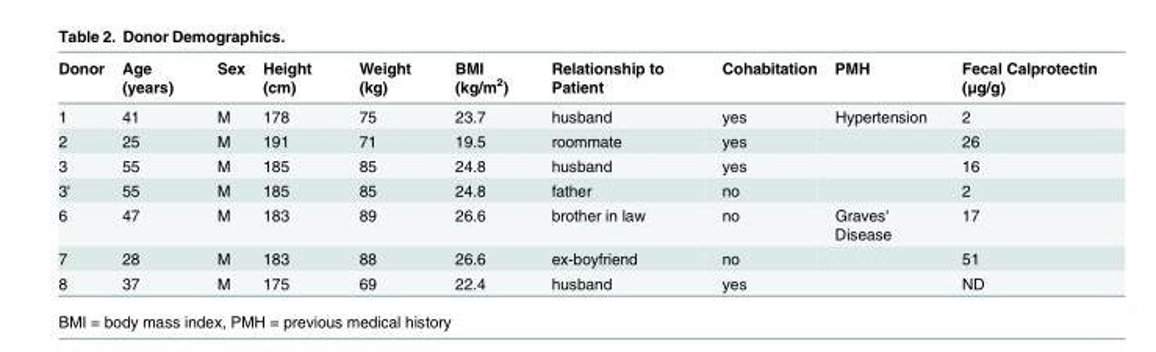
<table><thead><tr><td>Donor</td><td>Age (years)</td><td>Sex</td><td>Height (cm)</td><td>Weight (kg)</td><td>BMI (kg/m<sup>2</sup>)</td><td>Relationship to Patient</td><td>Cohabitation</td><td>PMH</td><td>Fecal Calprotectin (μg/g)</td></tr></thead><tbody><tr><td>1</td><td>41</td><td>M</td><td>178</td><td>75</td><td>23.7</td><td>husband</td><td>yes</td><td>Hypertension</td><td>2</td></tr><tr><td>2</td><td>25</td><td>M</td><td>191</td><td>71</td><td>19.5</td><td>roommate</td><td>yes</td><td></td><td>26</td></tr><tr><td>3</td><td>55</td><td>M</td><td>185</td><td>85</td><td>24.8</td><td>husband</td><td>yes</td><td></td><td>16</td></tr><tr><td>3&#x27;</td><td>55</td><td>M</td><td>185</td><td>85</td><td>24.8</td><td>father</td><td>no</td><td></td><td>2</td></tr><tr><td>6</td><td>47</td><td>M</td><td>183</td><td>89</td><td>26.6</td><td>brother in law</td><td>no</td><td>Graves&#x27; Disease</td><td>17</td></tr><tr><td>7</td><td>28</td><td>M</td><td>183</td><td>88</td><td>26.6</td><td>ex-boyfriend</td><td>no</td><td></td><td>51</td></tr><tr><td>8</td><td>37</td><td>M</td><td>175</td><td>69</td><td>22.4</td><td>husband</td><td>yes</td><td></td><td>ND</td></tr></tbody></table>